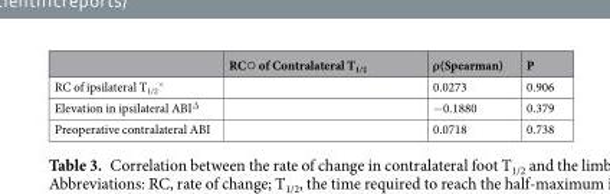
<table><thead><tr><td></td><td>RC○ of Contralateral T<sub>1/2</sub></td><td>ρ(Spearman)</td><td>P</td></tr></thead><tbody><tr><td>RC of ipsilateral T<sub>1/2</sub> <sup>×</sup></td><td></td><td>0.0273</td><td>0.906</td></tr><tr><td>Elevation in ipsilateral ABI<sup>Δ</sup></td><td></td><td>−0.1880</td><td>0.379</td></tr><tr><td>Preoperative contralateral ABI</td><td></td><td>0.0718</td><td>0.738</td></tr></tbody></table>